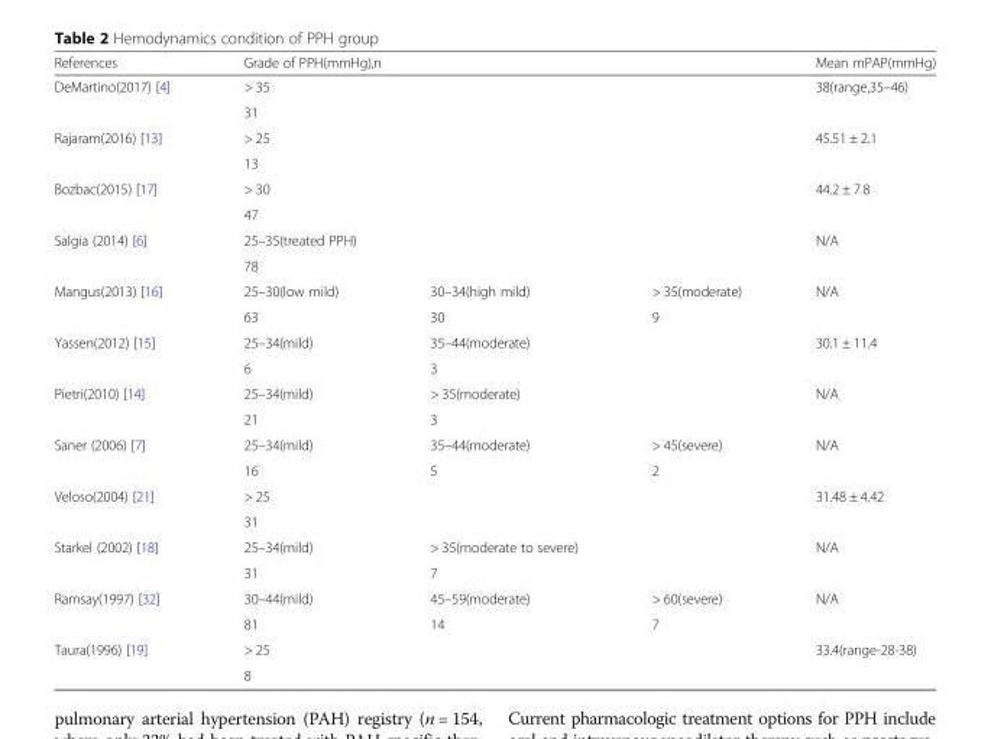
<table><thead><tr><td rowspan="3">References DeMartino(2017) [4]</td><td rowspan="2" colspan="3">Grade of PPH(mmHg),n &gt; 35</td><td rowspan="3">Mean mPAP(mmHg) 38(range,35–46)</td></tr><tr></tr><tr><td>31</td><td></td><td></td></tr></thead><tbody><tr><td rowspan="2">Rajaram(2016) [13]</td><td>&gt; 25</td><td></td><td></td><td>45.51 ± 2.1</td></tr><tr><td>13</td><td></td><td></td><td></td></tr><tr><td rowspan="2">Bozbac(2015) [17]</td><td>&gt; 30</td><td></td><td></td><td>44.2 ± 7.8</td></tr><tr><td>47</td><td></td><td></td><td></td></tr><tr><td rowspan="2">Salgia (2014) [6]</td><td>25–35(treated PPH)</td><td></td><td></td><td>N/A</td></tr><tr><td>78</td><td></td><td></td><td></td></tr><tr><td rowspan="2">Mangus(2013) [16]</td><td>25–30(low mild)</td><td>30–34(high mild)</td><td>&gt; 35(moderate)</td><td>N/A</td></tr><tr><td>63</td><td>30</td><td>9</td><td></td></tr><tr><td rowspan="2">Yassen(2012) [15]</td><td>25–34(mild)</td><td>35–44(moderate)</td><td></td><td>30.1 ± 11.4</td></tr><tr><td>6</td><td>3</td><td></td><td></td></tr><tr><td rowspan="2">Pietri(2010) [14]</td><td>25–34(mild)</td><td>&gt; 35(moderate)</td><td></td><td>N/A</td></tr><tr><td>21</td><td>3</td><td></td><td></td></tr><tr><td rowspan="2">Saner (2006) [7]</td><td>25–34(mild)</td><td>35–44(moderate)</td><td>&gt; 45(severe)</td><td>N/A</td></tr><tr><td>16</td><td>5</td><td>2</td><td></td></tr><tr><td rowspan="2">Veloso(2004) [21]</td><td>&gt; 25</td><td></td><td></td><td>31.48 ± 4.42</td></tr><tr><td>31</td><td></td><td></td><td></td></tr><tr><td rowspan="2">Starkel (2002) [18]</td><td>25–34(mild)</td><td>&gt; 35(moderate to severe)</td><td></td><td>N/A</td></tr><tr><td>31</td><td>7</td><td></td><td></td></tr><tr><td rowspan="2">Ramsay(1997) [32]</td><td>30–44(mild)</td><td>45–59(moderate)</td><td>&gt; 60(severe)</td><td>N/A</td></tr><tr><td>81</td><td>14</td><td>7</td><td></td></tr><tr><td rowspan="2">Taura(1996) [19]</td><td>&gt; 25</td><td></td><td></td><td>33.4(range-28-38)</td></tr><tr><td>8</td><td></td><td></td><td></td></tr></tbody></table>